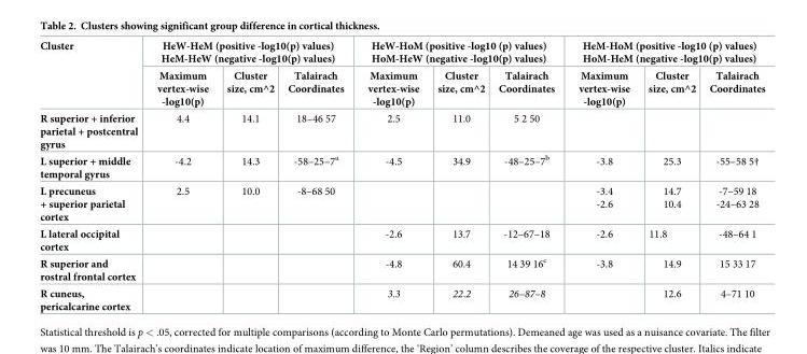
<table><thead><tr><td rowspan="2">Cluster</td><td colspan="3">HeW-HeM (positive -log10(p) values) HeM-HeW (negative -log10(p) values)</td><td colspan="3">HeW-HoM (positive -log10 (p) values) HoM-HeW (negative -log10(p) values)</td><td colspan="3">HeM-HoM (positive -log10 (p) values) HoM-HeM (negative -log10(p) values)</td></tr><tr><td>Maximum vertex-wise -log10(p)</td><td>Cluster size, cm^2</td><td>Talairach Coordinates</td><td>Maximum vertex-wise -log10(p)</td><td>Cluster size, cm^2</td><td>Talairach Coordinates</td><td>Maximum vertex-wise -log10(p)</td><td>Cluster size, cm^2</td><td>Talairach Coordinates</td></tr></thead><tbody><tr><td>R superior + inferior parietal + postcentral gyrus</td><td>4.4</td><td>14.1</td><td>18–46 57</td><td>2.5</td><td>11.0</td><td>5 2 50</td><td></td><td></td><td></td></tr><tr><td>L superior + middle temporal gyrus</td><td>-4.2</td><td>14.3</td><td>-58–25–7<sup>a</sup></td><td>-4.5</td><td>34.9</td><td>-48–25–7<sup>b</sup></td><td>-3.8</td><td>25.3</td><td>-55–58 5†</td></tr><tr><td>L precuneus + superior parietal cortex</td><td>2.5</td><td>10.0</td><td>-8–68 50</td><td></td><td></td><td></td><td>-3.4 -2.6</td><td>14.7 10.4</td><td>-7–59 18 -24–63 28</td></tr><tr><td>L lateral occipital cortex</td><td></td><td></td><td></td><td>-2.6</td><td>13.7</td><td>-12–67–18</td><td>-2.6</td><td>11.8</td><td>-48–64 1</td></tr><tr><td>R superior and rostral frontal cortex</td><td></td><td></td><td></td><td>-4.8</td><td>60.4</td><td>14 39 16<sup>c</sup></td><td>-3.8</td><td>14.9</td><td>15 33 17</td></tr><tr><td>R cuneus, pericalcarine cortex</td><td></td><td></td><td></td><td>3.3</td><td>22.2</td><td>26–87–8</td><td></td><td>12.6</td><td>4–71 10</td></tr></tbody></table>